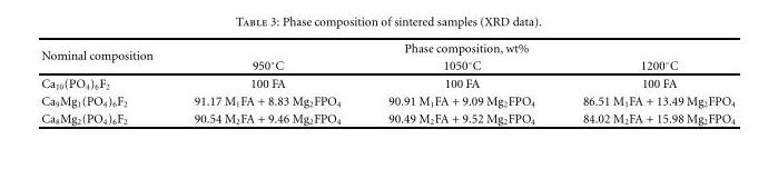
<table><thead><tr><td rowspan="2">Nominal composition</td><td colspan="3">Phase composition, wt%</td></tr><tr><td>950◦C</td><td>1050◦C</td><td>1200◦C</td></tr></thead><tbody><tr><td>Ca<sub>10</sub>(PO<sub>4</sub>)<sub>6</sub>F<sub>2</sub></td><td>100 FA</td><td>100 FA</td><td>100 FA</td></tr><tr><td>Ca<sub>9</sub>Mg<sub>1</sub>(PO<sub>4</sub>)<sub>6</sub>F<sub>2</sub></td><td>91.17 M<sub>1</sub>FA + 8.83 Mg<sub>2</sub>FPO<sub>4</sub></td><td>90.91 M<sub>1</sub>FA + 9.09 Mg<sub>2</sub>FPO<sub>4</sub></td><td>86.51 M<sub>1</sub>FA + 13.49 Mg<sub>2</sub>FPO<sub>4</sub></td></tr><tr><td>Ca<sub>8</sub>Mg<sub>2</sub>(PO<sub>4</sub>)<sub>6</sub>F<sub>2</sub></td><td>90.54 M<sub>2</sub>FA + 9.46 Mg<sub>2</sub>FPO<sub>4</sub></td><td>90.49 M<sub>2</sub>FA + 9.52 Mg<sub>2</sub>FPO<sub>4</sub></td><td>84.02 M<sub>2</sub>FA + 15.98 Mg<sub>2</sub>FPO<sub>4</sub></td></tr></tbody></table>